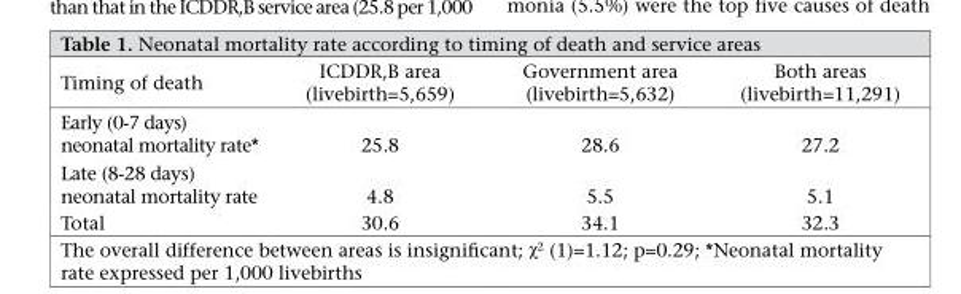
<table><thead><tr><td>Timing of death</td><td>ICDDR,B area (livebirth=5,659)</td><td>Government area (livebirth=5,632)</td><td>Both areas (livebirth=11,291)</td></tr></thead><tbody><tr><td>Early (0-7 days) neonatal mortality rate*</td><td>25.8</td><td>28.6</td><td>27.2</td></tr><tr><td>Late (8-28 days) neonatal mortality rate</td><td>4.8</td><td>5.5</td><td>5.1</td></tr><tr><td>Total</td><td>30.6</td><td>34.1</td><td>32.3</td></tr></tbody></table>